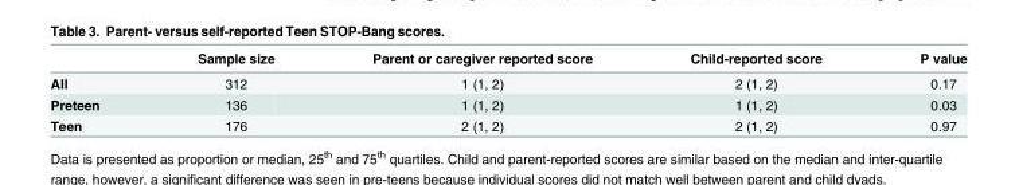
<table><thead><tr><td></td><td>Sample size</td><td>Parent or caregiver reported score</td><td>Child-reported score</td><td>P value</td></tr></thead><tbody><tr><td>All</td><td>312</td><td>1 (1, 2)</td><td>2 (1, 2)</td><td>0.17</td></tr><tr><td>Preteen</td><td>136</td><td>1 (1, 2)</td><td>1 (1, 2)</td><td>0.03</td></tr><tr><td>Teen</td><td>176</td><td>2 (1, 2)</td><td>2 (1, 2)</td><td>0.97</td></tr></tbody></table>